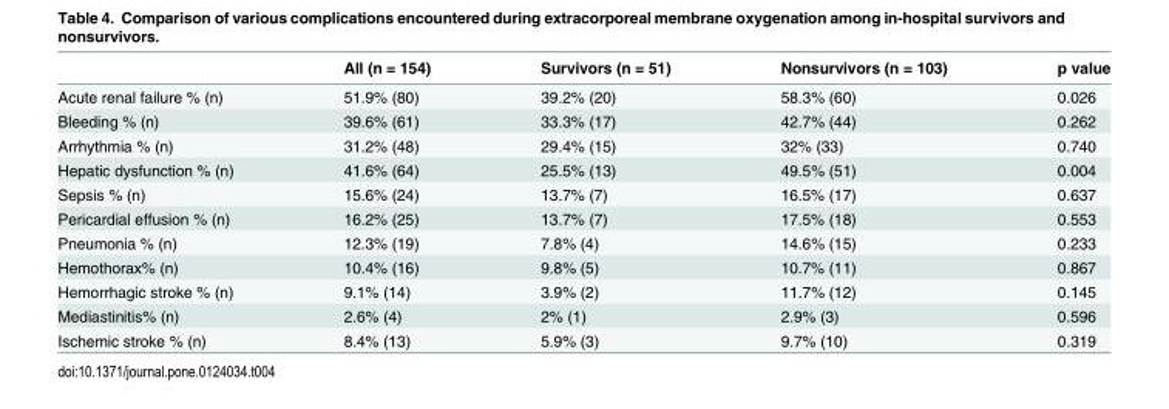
<table><thead><tr><td></td><td>All (n = 154)</td><td>Survivors (n = 51)</td><td>Nonsurvivors (n = 103)</td><td>p value</td></tr></thead><tbody><tr><td>Acute renal failure % (n)</td><td>51.9% (80)</td><td>39.2% (20)</td><td>58.3% (60)</td><td>0.026</td></tr><tr><td>Bleeding % (n)</td><td>39.6% (61)</td><td>33.3% (17)</td><td>42.7% (44)</td><td>0.262</td></tr><tr><td>Arrhythmia % (n)</td><td>31.2% (48)</td><td>29.4% (15)</td><td>32% (33)</td><td>0.740</td></tr><tr><td>Hepatic dysfunction % (n)</td><td>41.6% (64)</td><td>25.5% (13)</td><td>49.5% (51)</td><td>0.004</td></tr><tr><td>Sepsis % (n)</td><td>15.6% (24)</td><td>13.7% (7)</td><td>16.5% (17)</td><td>0.637</td></tr><tr><td>Pericardial effusion % (n)</td><td>16.2% (25)</td><td>13.7% (7)</td><td>17.5% (18)</td><td>0.553</td></tr><tr><td>Pneumonia % (n)</td><td>12.3% (19)</td><td>7.8% (4)</td><td>14.6% (15)</td><td>0.233</td></tr><tr><td>Hemothorax% (n)</td><td>10.4% (16)</td><td>9.8% (5)</td><td>10.7% (11)</td><td>0.867</td></tr><tr><td>Hemorrhagic stroke % (n)</td><td>9.1% (14)</td><td>3.9% (2)</td><td>11.7% (12)</td><td>0.145</td></tr><tr><td>Mediastinitis% (n)</td><td>2.6% (4)</td><td>2% (1)</td><td>2.9% (3)</td><td>0.596</td></tr><tr><td>Ischemic stroke % (n)</td><td>8.4% (13)</td><td>5.9% (3)</td><td>9.7% (10)</td><td>0.319</td></tr></tbody></table>